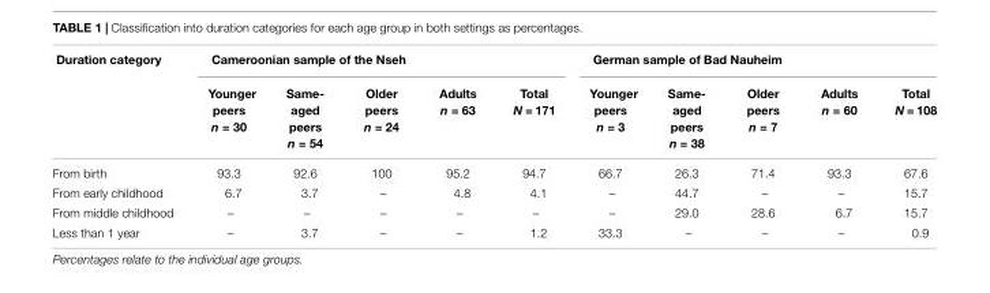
<table><thead><tr><td rowspan="2">Duration category</td><td colspan="5">Cameroonian sample of the Nseh</td><td colspan="5">German sample of Bad Nauheim</td></tr><tr><td>Younger peers n = 30</td><td>Same- aged peers n = 54</td><td>Older peers n = 24</td><td>Adults n = 63</td><td>Total N = 171</td><td>Younger peers n = 3</td><td>Same- aged peers n = 38</td><td>Older peers n = 7</td><td>Adults n = 60</td><td>Total N = 108</td></tr></thead><tbody><tr><td>From birth</td><td>93.3</td><td>92.6</td><td>100</td><td>95.2</td><td>94.7</td><td>66.7</td><td>26.3</td><td>71.4</td><td>93.3</td><td>67.6</td></tr><tr><td>From early childhood</td><td>6.7</td><td>3.7</td><td>–</td><td>4.8</td><td>4.1</td><td>–</td><td>44.7</td><td>–</td><td>–</td><td>15.7</td></tr><tr><td>From middle childhood</td><td>–</td><td>–</td><td>–</td><td>–</td><td>–</td><td>–</td><td>29.0</td><td>28.6</td><td>6.7</td><td>15.7</td></tr><tr><td>Less than 1 year</td><td>–</td><td>3.7</td><td>–</td><td>–</td><td>1.2</td><td>33.3</td><td>–</td><td>–</td><td>–</td><td>0.9</td></tr></tbody></table>